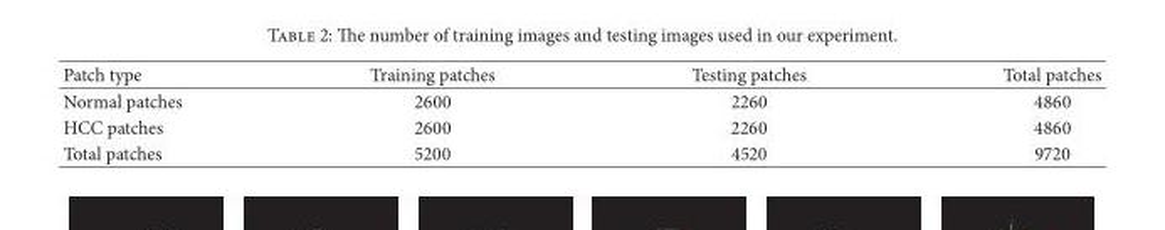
<table><thead><tr><td>Patch type</td><td>Training patches</td><td>Testing patches</td><td>Total patches</td></tr></thead><tbody><tr><td>Normal patches</td><td>2600</td><td>2260</td><td>4860</td></tr><tr><td>HCC patches</td><td>2600</td><td>2260</td><td>4860</td></tr><tr><td>Total patches</td><td>5200</td><td>4520</td><td>9720</td></tr></tbody></table>